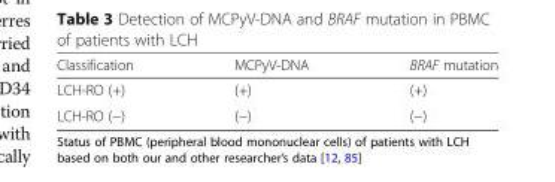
<table><thead><tr><td>Classification</td><td>MCPyV-DNA</td><td>BRAF mutation</td></tr></thead><tbody><tr><td>LCH-RO (+)</td><td>(+)</td><td>(+)</td></tr><tr><td>LCH-RO (−)</td><td>(−)</td><td>(−)</td></tr></tbody></table>